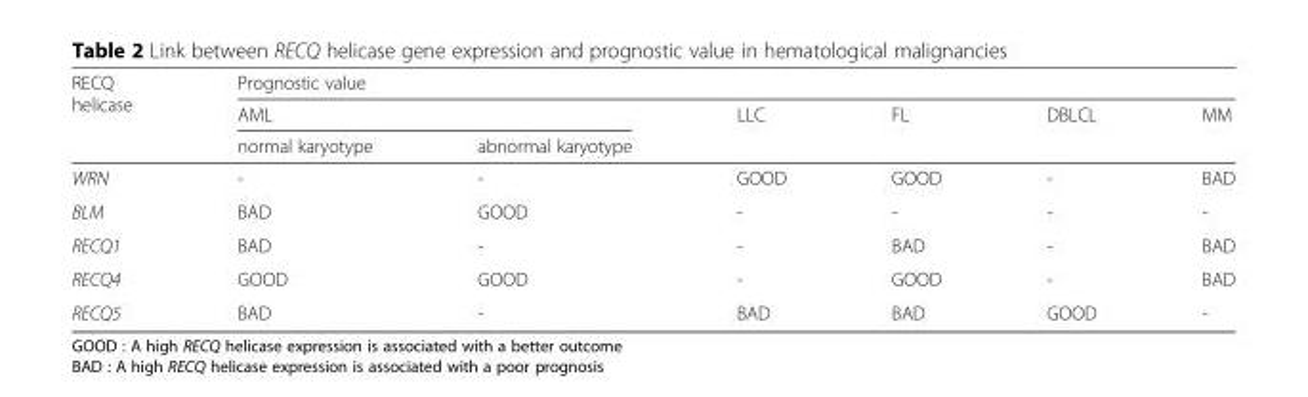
<table><thead><tr><td rowspan="3">RECQ helicase</td><td colspan="6">Prognostic value</td></tr><tr><td colspan="2">AML</td><td rowspan="2">LLC</td><td rowspan="2">FL</td><td rowspan="2">DBLCL</td><td rowspan="2">MM</td></tr><tr><td>normal karyotype</td><td>abnormal karyotype</td></tr></thead><tbody><tr><td>WRN</td><td>-</td><td>-</td><td>GOOD</td><td>GOOD</td><td>-</td><td>BAD</td></tr><tr><td>BLM</td><td>BAD</td><td>GOOD</td><td>-</td><td>-</td><td>-</td><td>-</td></tr><tr><td>RECQ1</td><td>BAD</td><td>-</td><td>-</td><td>BAD</td><td>-</td><td>BAD</td></tr><tr><td>RECQ4</td><td>GOOD</td><td>GOOD</td><td>-</td><td>GOOD</td><td>-</td><td>BAD</td></tr><tr><td>RECQ5</td><td>BAD</td><td>-</td><td>BAD</td><td>BAD</td><td>GOOD</td><td>-</td></tr></tbody></table>